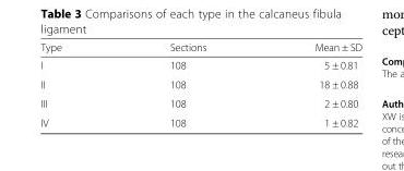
<table><thead><tr><td>Type</td><td>Sections</td><td>Mean ± SD</td></tr></thead><tbody><tr><td>I</td><td>108</td><td>5 ± 0.81</td></tr><tr><td>II</td><td>108</td><td>18 ± 0.88</td></tr><tr><td>III</td><td>108</td><td>2 ± 0.80</td></tr><tr><td>IV</td><td>108</td><td>1 ± 0.82</td></tr></tbody></table>